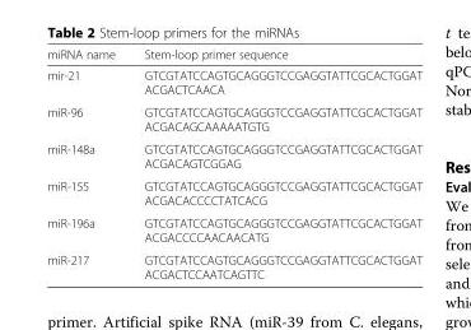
<table><thead><tr><td>miRNA name</td><td>Stem-loop primer sequence</td></tr></thead><tbody><tr><td>mir-21</td><td>GTCGTATCCAGTGCAGGGTCCGAGGTATTCGCACTGGAT ACGACTCAACA</td></tr><tr><td>miR-96</td><td>GTCGTATCCAGTGCAGGGTCCGAGGTATTCGCACTGGAT ACGACAGCAAAAATGTG</td></tr><tr><td>miR-148a</td><td>GTCGTATCCAGTGCAGGGTCCGAGGTATTCGCACTGGAT ACGACAGTCGGAG</td></tr><tr><td>miR-155</td><td>GTCGTATCCAGTGCAGGGTCCGAGGTATTCGCACTGGAT ACGACACCCCTATCACG</td></tr><tr><td>miR-196a</td><td>GTCGTATCCAGTGCAGGGTCCGAGGTATTCGCACTGGAT ACGACCCCAACAACATG</td></tr><tr><td>miR-217</td><td>GTCGTATCCAGTGCAGGGTCCGAGGTATTCGCACTGGAT ACGACTCCAATCAGTTC</td></tr></tbody></table>